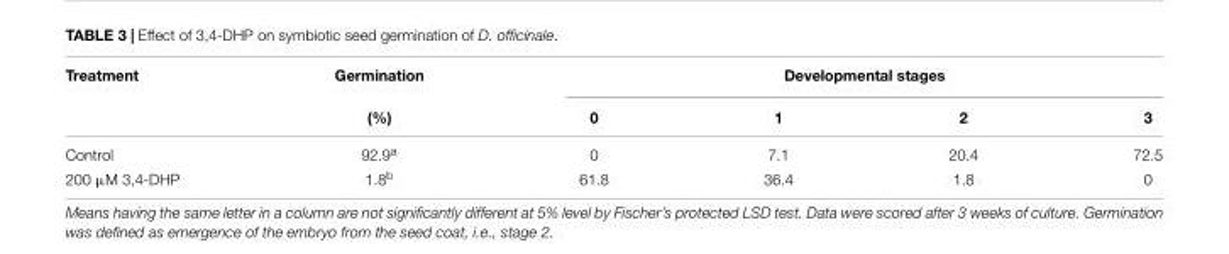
<table><thead><tr><td rowspan="2">Treatment</td><td rowspan="2">Germination (%)</td><td colspan="4">Developmental stages</td></tr><tr><td>0</td><td>1</td><td>2</td><td>3</td></tr></thead><tbody><tr><td>Control</td><td>92.9<sup>a</sup></td><td>0</td><td>7.1</td><td>20.4</td><td>72.5</td></tr><tr><td>200 µM 3,4-DHP</td><td>1.8<sup>b</sup></td><td>61.8</td><td>36.4</td><td>1.8</td><td>0</td></tr></tbody></table>